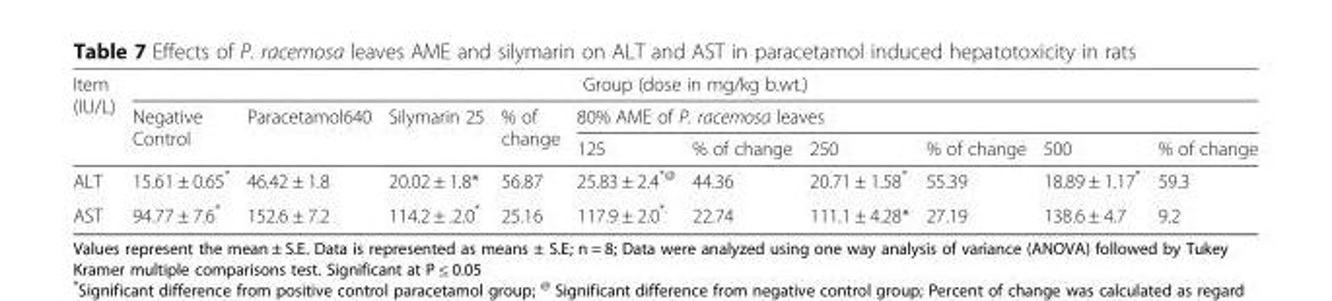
<table><thead><tr><td rowspan="3">Item (IU/L)</td><td colspan="10">Group (dose in mg/kg b.wt.)</td></tr><tr><td rowspan="2">Negative Control</td><td rowspan="2">Paracetamol640</td><td rowspan="2">Silymarin 25</td><td rowspan="2">% of change</td><td colspan="6">80% AME of P. racemosa leaves</td></tr><tr><td>125</td><td>% of change</td><td>250</td><td>% of change</td><td>500</td><td>% of change</td></tr></thead><tbody><tr><td>ALT</td><td>15.61 ± 0.65*</td><td>46.42 ± 1.8</td><td>20.02 ± 1.8*</td><td>56.87</td><td>25.83 ± 2.4<sup>*@</sup></td><td>44.36</td><td>20.71 ± 1.58*</td><td>55.39</td><td>18.89 ± 1.17*</td><td>59.3</td></tr><tr><td>AST</td><td>94.77 ± 7.6*</td><td>152.6 ± 7.2</td><td>114.2 ± .2.0*</td><td>25.16</td><td>117.9 ± 2.0<sup>*.</sup></td><td>22.74</td><td>111.1 ± 4.28*</td><td>27.19</td><td>138.6 ± 4.7</td><td>9.2</td></tr></tbody></table>